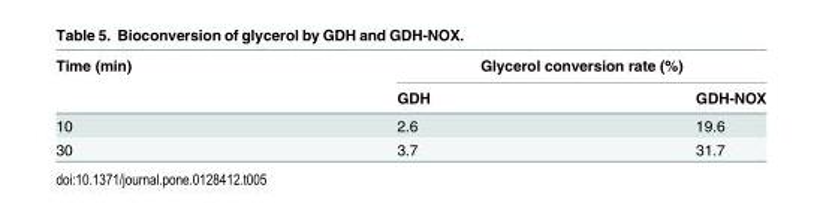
<table><thead><tr><td rowspan="2">Time (min)</td><td colspan="2">Glycerol conversion rate (%)</td></tr><tr><td>GDH</td><td>GDH-NOX</td></tr></thead><tbody><tr><td>10</td><td>2.6</td><td>19.6</td></tr><tr><td>30</td><td>3.7</td><td>31.7</td></tr></tbody></table>